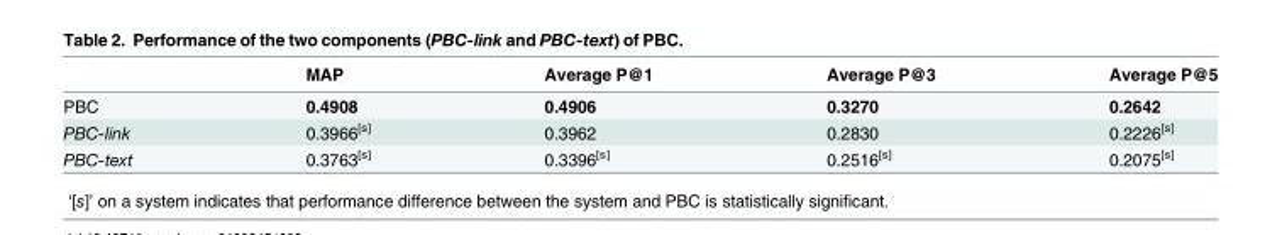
<table><thead><tr><td></td><td>MAP</td><td>Average P@1</td><td>Average P@3</td><td>Average P@5</td></tr></thead><tbody><tr><td>PBC</td><td>0.4908</td><td>0.4906</td><td>0.3270</td><td>0.2642</td></tr><tr><td>PBC-link</td><td>0.3966<sup>[s]</sup></td><td>0.3962</td><td>0.2830</td><td>0.2226<sup>[s]</sup></td></tr><tr><td>PBC-text</td><td>0.3763<sup>[s]</sup></td><td>0.3396<sup>[s]</sup></td><td>0.2516<sup>[s]</sup></td><td>0.2075<sup>[s]</sup></td></tr></tbody></table>